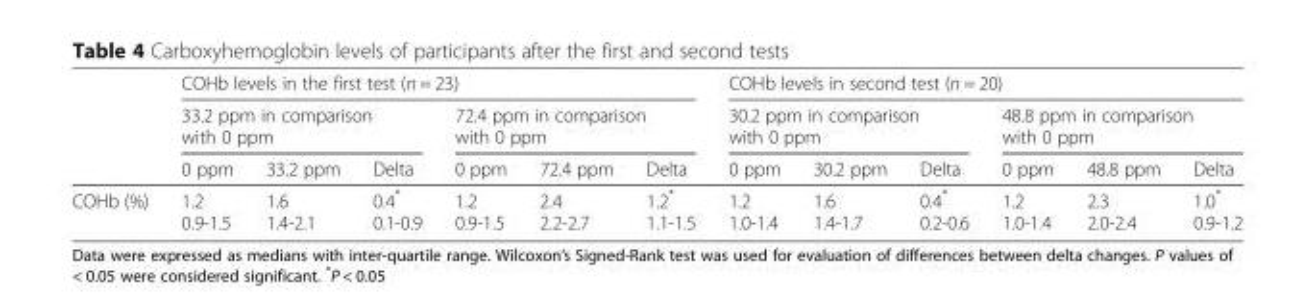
<table><thead><tr><td rowspan="3"></td><td colspan="6">COHb levels in the first test (n = 23)</td><td colspan="6">COHb levels in second test (n = 20)</td></tr><tr><td colspan="3">33.2 ppm in comparison with 0 ppm</td><td colspan="3">72.4 ppm in comparison with 0 ppm</td><td colspan="3">30.2 ppm in comparison with 0 ppm</td><td colspan="3">48.8 ppm in comparison with 0 ppm</td></tr><tr><td>0 ppm</td><td>33.2 ppm</td><td>Delta</td><td>0 ppm</td><td>72.4 ppm</td><td>Delta</td><td>0 ppm</td><td>30.2 ppm</td><td>Delta</td><td>0 ppm</td><td>48.8 ppm</td><td>Delta</td></tr></thead><tbody><tr><td>COHb (%)</td><td>1.2 0.9-1.5</td><td>1.6 1.4-2.1</td><td>0.4* 0.1-0.9</td><td>1.2 0.9-1.5</td><td>2.4 2.2-2.7</td><td>1.2* 1.1-1.5</td><td>1.2 1.0-1.4</td><td>1.6 1.4-1.7</td><td>0.4* 0.2-0.6</td><td>1.2 1.0-1.4</td><td>2.3 2.0-2.4</td><td>1.0* 0.9-1.2</td></tr></tbody></table>